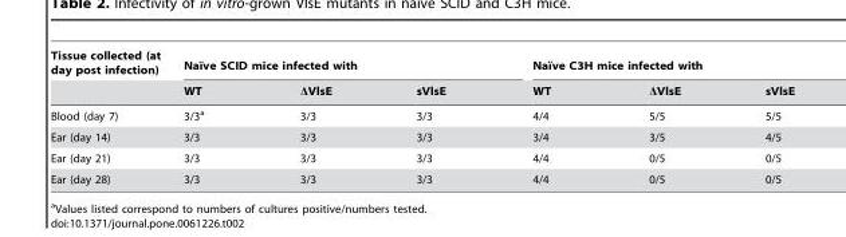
<table><thead><tr><td rowspan="2">Tissue collected (at day post infection)</td><td colspan="3">Naı¨ve SCID mice infected with</td><td colspan="3">Naı¨ve C3H mice infected with</td></tr><tr><td>WT</td><td>ΔVlsE</td><td>sVlsE</td><td>WT</td><td>ΔVlsE</td><td>sVlsE</td></tr></thead><tbody><tr><td>Blood (day 7)</td><td>3/3<sup>a</sup></td><td>3/3</td><td>3/3</td><td>4/4</td><td>5/5</td><td>5/5</td></tr><tr><td>Ear (day 14)</td><td>3/3</td><td>3/3</td><td>3/3</td><td>3/4</td><td>3/5</td><td>4/5</td></tr><tr><td>Ear (day 21)</td><td>3/3</td><td>3/3</td><td>3/3</td><td>4/4</td><td>0/5</td><td>0/5</td></tr><tr><td>Ear (day 28)</td><td>3/3</td><td>3/3</td><td>3/3</td><td>4/4</td><td>0/5</td><td>0/5</td></tr></tbody></table>